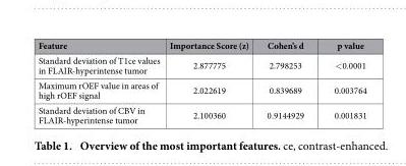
<table><thead><tr><td>Feature</td><td>Importance Score (z)</td><td>Cohen’s d</td><td>p value</td></tr></thead><tbody><tr><td>Standard deviation of T1ce values in FLAIR-hyperintense tumor</td><td>2.877775</td><td>2.798253</td><td>&lt; 0.0001</td></tr><tr><td>Maximum rOEF value in areas of high rOEF signal</td><td>2.022619</td><td>0.839689</td><td>0.003764</td></tr><tr><td>Standard deviation of CBV in FLAIR-hyperintense tumor</td><td>2.100360</td><td>0.9144929</td><td>0.001831</td></tr></tbody></table>